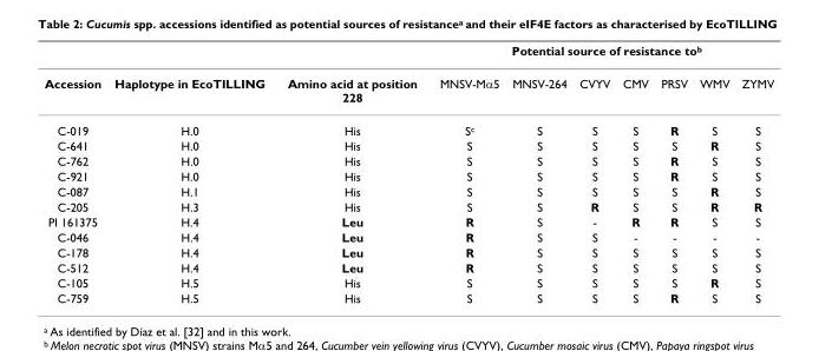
<table><thead><tr><td rowspan="2">Accession</td><td rowspan="2">Haplotype in EcoTILLING</td><td rowspan="2">Amino acid at position 228</td><td colspan="7">Potential source of resistance to<sup>b</sup></td></tr><tr><td>MNSV-Mα5</td><td>MNSV-264</td><td>CVYV</td><td>CMV</td><td>PRSV</td><td>WMV</td><td>ZYMV</td></tr></thead><tbody><tr><td>C-019</td><td>H.0</td><td>His</td><td>S<sup>c</sup></td><td>S</td><td>S</td><td>S</td><td>R</td><td>S</td><td>S</td></tr><tr><td>C-641</td><td>H.0</td><td>His</td><td>S</td><td>S</td><td>S</td><td>S</td><td>S</td><td>R</td><td>S</td></tr><tr><td>C-762</td><td>H.0</td><td>His</td><td>S</td><td>S</td><td>S</td><td>S</td><td>R</td><td>S</td><td>S</td></tr><tr><td>C-921</td><td>H.0</td><td>His</td><td>S</td><td>S</td><td>S</td><td>S</td><td>R</td><td>S</td><td>S</td></tr><tr><td>C-087</td><td>H.1</td><td>His</td><td>S</td><td>S</td><td>S</td><td>S</td><td>S</td><td>R</td><td>S</td></tr><tr><td>C-205</td><td>H.3</td><td>His</td><td>S</td><td>S</td><td>R</td><td>S</td><td>S</td><td>R</td><td>R</td></tr><tr><td>PI 161375</td><td>H.4</td><td>Leu</td><td>R</td><td>S</td><td>-</td><td>R</td><td>R</td><td>S</td><td>S</td></tr><tr><td>C-046</td><td>H.4</td><td>Leu</td><td>R</td><td>S</td><td>S</td><td>-</td><td>-</td><td>-</td><td>-</td></tr><tr><td>C-178</td><td>H.4</td><td>Leu</td><td>R</td><td>S</td><td>S</td><td>S</td><td>S</td><td>S</td><td>S</td></tr><tr><td>C-512</td><td>H.4</td><td>Leu</td><td>R</td><td>S</td><td>S</td><td>S</td><td>S</td><td>S</td><td>S</td></tr><tr><td>C-105</td><td>H.5</td><td>His</td><td>S</td><td>S</td><td>S</td><td>S</td><td>S</td><td>R</td><td>S</td></tr><tr><td>C-759</td><td>H.5</td><td>His</td><td>S</td><td>S</td><td>S</td><td>S</td><td>R</td><td>S</td><td>S</td></tr></tbody></table>